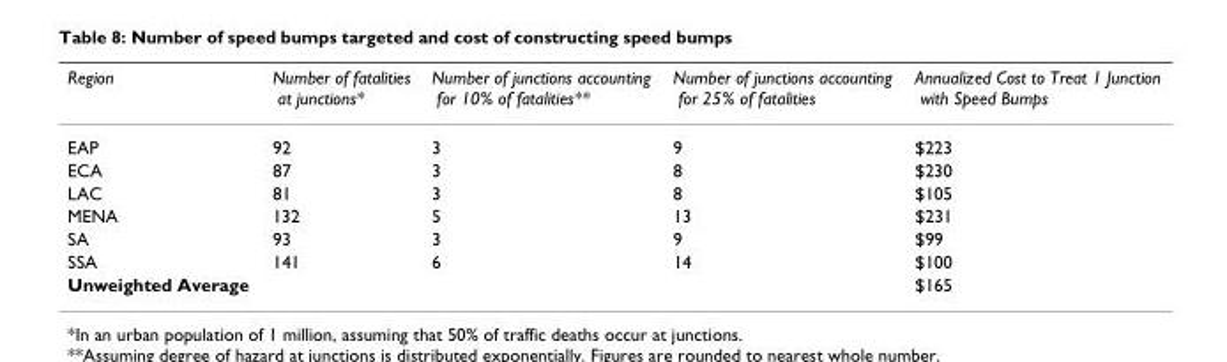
<table><thead><tr><td>Region</td><td>Number of fatalities at junctions*</td><td>Number of junctions accounting for 10% of fatalities**</td><td>Number of junctions accounting for 25% of fatalities</td><td>Annualized Cost to Treat 1 Junction with Speed Bumps</td></tr></thead><tbody><tr><td>EAP</td><td>92</td><td>3</td><td>9</td><td>$223</td></tr><tr><td>ECA</td><td>87</td><td>3</td><td>8</td><td>$230</td></tr><tr><td>LAC</td><td>81</td><td>3</td><td>8</td><td>$105</td></tr><tr><td>MENA</td><td>132</td><td>5</td><td>13</td><td>$231</td></tr><tr><td>SA</td><td>93</td><td>3</td><td>9</td><td>$99</td></tr><tr><td>SSA</td><td>141</td><td>6</td><td>14</td><td>$100</td></tr><tr><td>Unweighted Average</td><td></td><td></td><td></td><td>$165</td></tr></tbody></table>